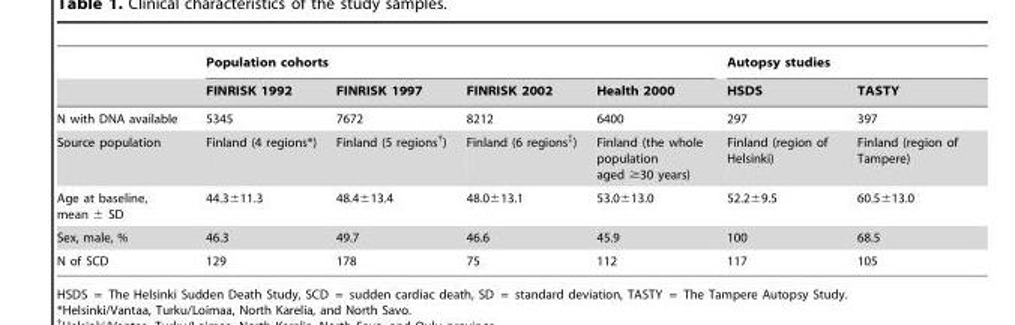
<table><thead><tr><td rowspan="2"></td><td colspan="4">Population cohorts</td><td colspan="2">Autopsy studies</td></tr><tr><td>FINRISK 1992</td><td>FINRISK 1997</td><td>FINRISK 2002</td><td>Health 2000</td><td>HSDS</td><td>TASTY</td></tr></thead><tbody><tr><td>N with DNA available</td><td>5345</td><td>7672</td><td>8212</td><td>6400</td><td>297</td><td>397</td></tr><tr><td>Source population</td><td>Finland (4 regions*)</td><td>Finland (5 regions†)</td><td>Finland (6 regions‡)</td><td>Finland (the whole population aged ≥30 years)</td><td>Finland (region of Helsinki)</td><td>Finland (region of Tampere)</td></tr><tr><td>Age at baseline, mean ± SD</td><td>44.3±11.3</td><td>48.4±13.4</td><td>48.0±13.1</td><td>53.0±13.0</td><td>52.2±9.5</td><td>60.5±13.0</td></tr><tr><td>Sex, male, %</td><td>46.3</td><td>49.7</td><td>46.6</td><td>45.9</td><td>100</td><td>68.5</td></tr><tr><td>N of SCD</td><td>129</td><td>178</td><td>75</td><td>112</td><td>117</td><td>105</td></tr></tbody></table>